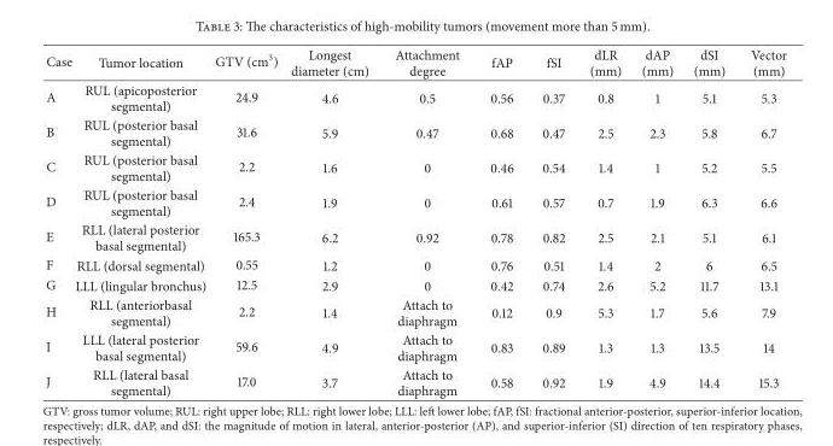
<table><thead><tr><td>Case</td><td>Tumor location</td><td>GTV (cm<sup>3</sup>)</td><td>Longest diameter (cm)</td><td>Attachment degree</td><td>fAP</td><td>fSI</td><td>dLR (mm)</td><td>dAP (mm)</td><td>dSI (mm)</td><td>Vector (mm)</td></tr></thead><tbody><tr><td>A</td><td>RUL (apicoposterior segmental)</td><td>24.9</td><td>4.6</td><td>0.5</td><td>0.56</td><td>0.37</td><td>0.8</td><td>1</td><td>5.1</td><td>5.3</td></tr><tr><td>B</td><td>RUL (posterior basal segmental)</td><td>31.6</td><td>5.9</td><td>0.47</td><td>0.68</td><td>0.47</td><td>2.5</td><td>2.3</td><td>5.8</td><td>6.7</td></tr><tr><td>C</td><td>RUL (posterior basal segmental)</td><td>2.2</td><td>1.6</td><td>0</td><td>0.46</td><td>0.54</td><td>1.4</td><td>1</td><td>5.2</td><td>5.5</td></tr><tr><td>D</td><td>RUL (posterior basal segmental)</td><td>2.4</td><td>1.9</td><td>0</td><td>0.61</td><td>0.57</td><td>0.7</td><td>1.9</td><td>6.3</td><td>6.6</td></tr><tr><td>E</td><td>RLL (lateral posterior basal segmental)</td><td>165.3</td><td>6.2</td><td>0.92</td><td>0.78</td><td>0.82</td><td>2.5</td><td>2.1</td><td>5.1</td><td>6.1</td></tr><tr><td>F</td><td>RLL (dorsal segmental)</td><td>0.55</td><td>1.2</td><td>0</td><td>0.76</td><td>0.51</td><td>1.4</td><td>2</td><td>6</td><td>6.5</td></tr><tr><td>G</td><td>LLL (lingular bronchus)</td><td>12.5</td><td>2.9</td><td>0</td><td>0.42</td><td>0.74</td><td>2.6</td><td>5.2</td><td>11.7</td><td>13.1</td></tr><tr><td>H</td><td>RLL (anteriorbasal segmental)</td><td>2.2</td><td>1.4</td><td>Attach to diaphragm</td><td>0.12</td><td>0.9</td><td>5.3</td><td>1.7</td><td>5.6</td><td>7.9</td></tr><tr><td>I</td><td>LLL (lateral posterior basal segmental)</td><td>59.6</td><td>4.9</td><td>Attach to diaphragm</td><td>0.83</td><td>0.89</td><td>1.3</td><td>1.3</td><td>13.5</td><td>14</td></tr><tr><td>J</td><td>RLL (lateral basal segmental)</td><td>17.0</td><td>3.7</td><td>Attach to diaphragm</td><td>0.58</td><td>0.92</td><td>1.9</td><td>4.9</td><td>14.4</td><td>15.3</td></tr></tbody></table>